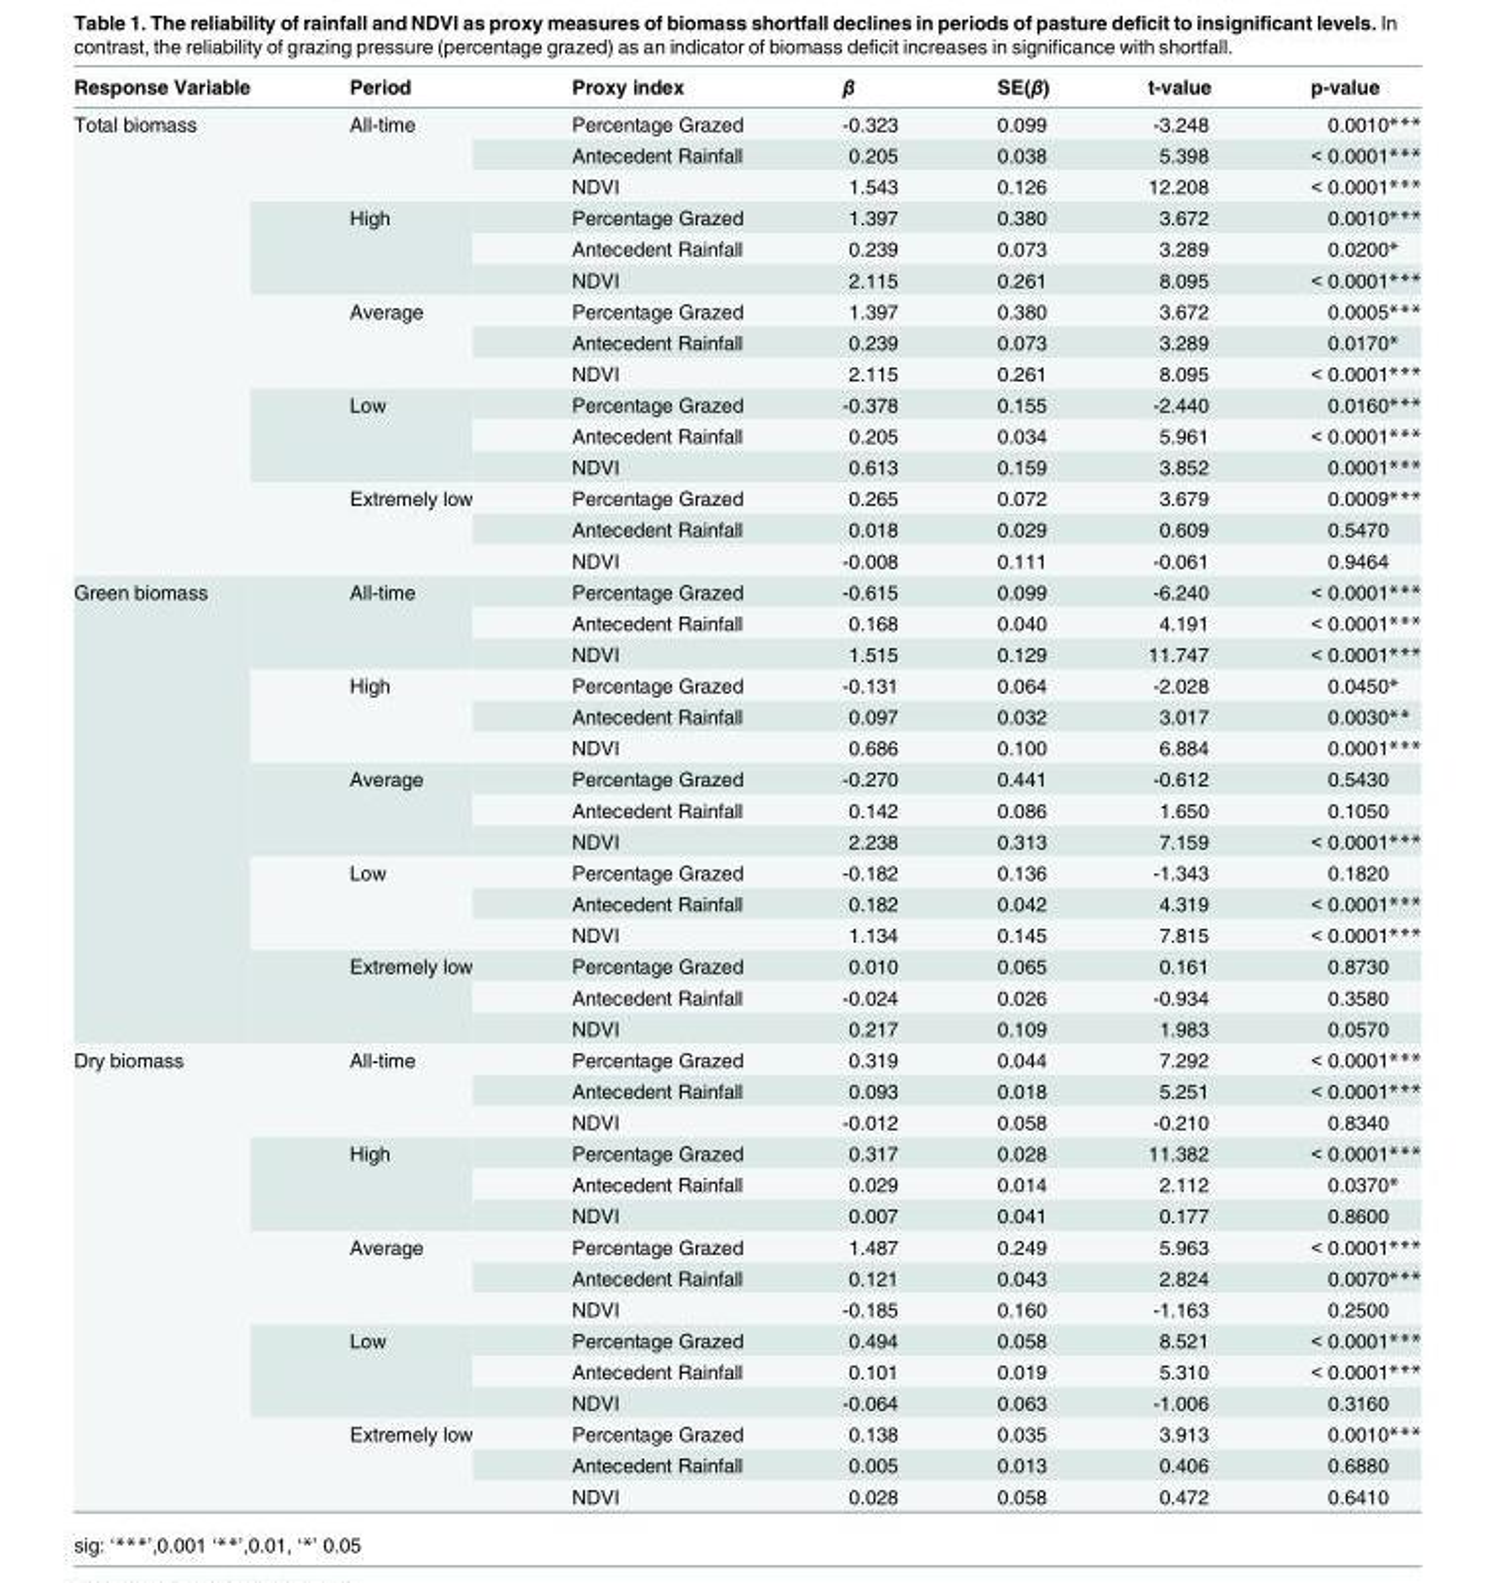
<table><thead><tr><td>Response Variable</td><td>Period</td><td>Proxy index</td><td>β</td><td>SE(β)</td><td>t-value</td><td>p-value</td></tr></thead><tbody><tr><td rowspan="15">Total biomass</td><td rowspan="3">All-time</td><td>Percentage Grazed</td><td>-0.323</td><td>0.099</td><td>-3.248</td><td>0.0010***</td></tr><tr><td>Antecedent Rainfall</td><td>0.205</td><td>0.038</td><td>5.398</td><td>&lt; 0.0001***</td></tr><tr><td>NDVI</td><td>1.543</td><td>0.126</td><td>12.208</td><td>&lt; 0.0001***</td></tr><tr><td rowspan="3">High</td><td>Percentage Grazed</td><td>1.397</td><td>0.380</td><td>3.672</td><td>0.0010***</td></tr><tr><td>Antecedent Rainfall</td><td>0.239</td><td>0.073</td><td>3.289</td><td>0.0200*</td></tr><tr><td>NDVI</td><td>2.115</td><td>0.261</td><td>8.095</td><td>&lt; 0.0001***</td></tr><tr><td rowspan="3">Average</td><td>Percentage Grazed</td><td>1.397</td><td>0.380</td><td>3.672</td><td>0.0005***</td></tr><tr><td>Antecedent Rainfall</td><td>0.239</td><td>0.073</td><td>3.289</td><td>0.0170*</td></tr><tr><td>NDVI</td><td>2.115</td><td>0.261</td><td>8.095</td><td>&lt; 0.0001***</td></tr><tr><td rowspan="3">Low</td><td>Percentage Grazed</td><td>-0.378</td><td>0.155</td><td>-2.440</td><td>0.0160***</td></tr><tr><td>Antecedent Rainfall</td><td>0.205</td><td>0.034</td><td>5.961</td><td>&lt; 0.0001***</td></tr><tr><td>NDVI</td><td>0.613</td><td>0.159</td><td>3.852</td><td>0.0001***</td></tr><tr><td rowspan="3">Extremely low</td><td>Percentage Grazed</td><td>0.265</td><td>0.072</td><td>3.679</td><td>0.0009***</td></tr><tr><td>Antecedent Rainfall</td><td>0.018</td><td>0.029</td><td>0.609</td><td>0.5470</td></tr><tr><td>NDVI</td><td>-0.008</td><td>0.111</td><td>-0.061</td><td>0.9464</td></tr><tr><td rowspan="15">Green biomass</td><td rowspan="3">All-time</td><td>Percentage Grazed</td><td>-0.615</td><td>0.099</td><td>-6.240</td><td>&lt; 0.0001***</td></tr><tr><td>Antecedent Rainfall</td><td>0.168</td><td>0.040</td><td>4.191</td><td>&lt; 0.0001***</td></tr><tr><td>NDVI</td><td>1.515</td><td>0.129</td><td>11.747</td><td>&lt; 0.0001***</td></tr><tr><td rowspan="3">High</td><td>Percentage Grazed</td><td>-0.131</td><td>0.064</td><td>-2.028</td><td>0.0450*</td></tr><tr><td>Antecedent Rainfall</td><td>0.097</td><td>0.032</td><td>3.017</td><td>0.0030**</td></tr><tr><td>NDVI</td><td>0.686</td><td>0.100</td><td>6.884</td><td>0.0001***</td></tr><tr><td rowspan="3">Average</td><td>Percentage Grazed</td><td>-0.270</td><td>0.441</td><td>-0.612</td><td>0.5430</td></tr><tr><td>Antecedent Rainfall</td><td>0.142</td><td>0.086</td><td>1.650</td><td>0.1050</td></tr><tr><td>NDVI</td><td>2.238</td><td>0.313</td><td>7.159</td><td>&lt; 0.0001***</td></tr><tr><td rowspan="3">Low</td><td>Percentage Grazed</td><td>-0.182</td><td>0.136</td><td>-1.343</td><td>0.1820</td></tr><tr><td>Antecedent Rainfall</td><td>0.182</td><td>0.042</td><td>4.319</td><td>&lt; 0.0001***</td></tr><tr><td>NDVI</td><td>1.134</td><td>0.145</td><td>7.815</td><td>&lt; 0.0001***</td></tr><tr><td rowspan="3">Extremely low</td><td>Percentage Grazed</td><td>0.010</td><td>0.065</td><td>0.161</td><td>0.8730</td></tr><tr><td>Antecedent Rainfall</td><td>-0.024</td><td>0.026</td><td>-0.934</td><td>0.3580</td></tr><tr><td>NDVI</td><td>0.217</td><td>0.109</td><td>1.983</td><td>0.0570</td></tr><tr><td rowspan="15">Dry biomass</td><td rowspan="3">All-time</td><td>Percentage Grazed</td><td>0.319</td><td>0.044</td><td>7.292</td><td>&lt; 0.0001***</td></tr><tr><td>Antecedent Rainfall</td><td>0.093</td><td>0.018</td><td>5.251</td><td>&lt; 0.0001***</td></tr><tr><td>NDVI</td><td>-0.012</td><td>0.058</td><td>-0.210</td><td>0.8340</td></tr><tr><td rowspan="3">High</td><td>Percentage Grazed</td><td>0.317</td><td>0.028</td><td>11.382</td><td>&lt; 0.0001***</td></tr><tr><td>Antecedent Rainfall</td><td>0.029</td><td>0.014</td><td>2.112</td><td>0.0370*</td></tr><tr><td>NDVI</td><td>0.007</td><td>0.041</td><td>0.177</td><td>0.8600</td></tr><tr><td rowspan="3">Average</td><td>Percentage Grazed</td><td>1.487</td><td>0.249</td><td>5.963</td><td>&lt; 0.0001***</td></tr><tr><td>Antecedent Rainfall</td><td>0.121</td><td>0.043</td><td>2.824</td><td>0.0070***</td></tr><tr><td>NDVI</td><td>-0.185</td><td>0.160</td><td>-1.163</td><td>0.2500</td></tr><tr><td rowspan="3">Low</td><td>Percentage Grazed</td><td>0.494</td><td>0.058</td><td>8.521</td><td>&lt; 0.0001***</td></tr><tr><td>Antecedent Rainfall</td><td>0.101</td><td>0.019</td><td>5.310</td><td>&lt; 0.0001***</td></tr><tr><td>NDVI</td><td>-0.064</td><td>0.063</td><td>-1.006</td><td>0.3160</td></tr><tr><td rowspan="3">Extremely low</td><td>Percentage Grazed</td><td>0.138</td><td>0.035</td><td>3.913</td><td>0.0010***</td></tr><tr><td>Antecedent Rainfall</td><td>0.005</td><td>0.013</td><td>0.406</td><td>0.6880</td></tr><tr><td>NDVI</td><td>0.028</td><td>0.058</td><td>0.472</td><td>0.6410</td></tr></tbody></table>